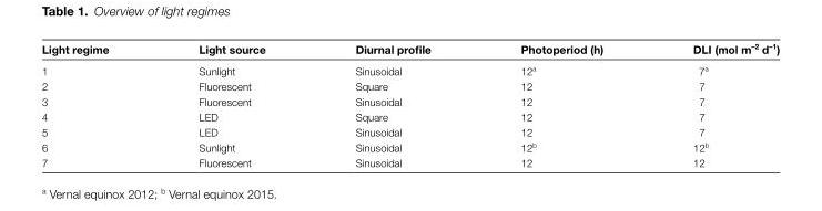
<table><thead><tr><td>Light regime</td><td>Light source</td><td>Diurnal profile</td><td>Photoperiod (h)</td><td>DLI (mol m<sup>–2</sup> d<sup>–1</sup>)</td></tr></thead><tbody><tr><td>1</td><td>Sunlight</td><td>Sinusoidal</td><td>12<sup>a</sup></td><td>7<sup>a</sup></td></tr><tr><td>2</td><td>Fluorescent</td><td>Square</td><td>12</td><td>7</td></tr><tr><td>3</td><td>Fluorescent</td><td>Sinusoidal</td><td>12</td><td>7</td></tr><tr><td>4</td><td>LED</td><td>Square</td><td>12</td><td>7</td></tr><tr><td>5</td><td>LED</td><td>Sinusoidal</td><td>12</td><td>7</td></tr><tr><td>6</td><td>Sunlight</td><td>Sinusoidal</td><td>12<sup>b</sup></td><td>12<sup>b</sup></td></tr><tr><td>7</td><td>Fluorescent</td><td>Sinusoidal</td><td>12</td><td>12</td></tr></tbody></table>